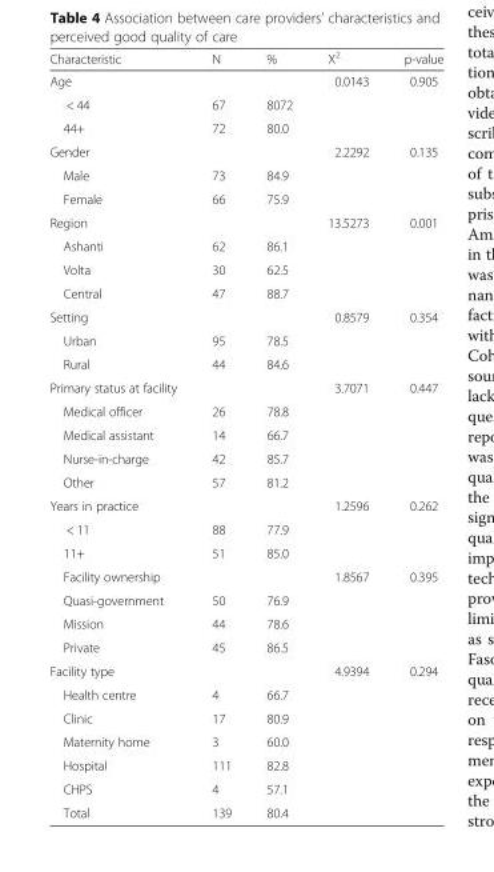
<table><thead><tr><td>Characteristic</td><td>N</td><td>%</td><td>X<sup>2</sup></td><td>p-value</td></tr></thead><tbody><tr><td>Age</td><td></td><td></td><td>0.0143</td><td>0.905</td></tr><tr><td>&lt; 44</td><td>67</td><td>8072</td><td></td><td></td></tr><tr><td>44+</td><td>72</td><td>80.0</td><td></td><td></td></tr><tr><td>Gender</td><td></td><td></td><td>2.2292</td><td>0.135</td></tr><tr><td>Male</td><td>73</td><td>84.9</td><td></td><td></td></tr><tr><td>Female</td><td>66</td><td>75.9</td><td></td><td></td></tr><tr><td>Region</td><td></td><td></td><td>13.5273</td><td>0.001</td></tr><tr><td>Ashanti</td><td>62</td><td>86.1</td><td></td><td></td></tr><tr><td>Volta</td><td>30</td><td>62.5</td><td></td><td></td></tr><tr><td>Central</td><td>47</td><td>88.7</td><td></td><td></td></tr><tr><td>Setting</td><td></td><td></td><td>0.8579</td><td>0.354</td></tr><tr><td>Urban</td><td>95</td><td>78.5</td><td></td><td></td></tr><tr><td>Rural</td><td>44</td><td>84.6</td><td></td><td></td></tr><tr><td>Primary status at facility</td><td></td><td></td><td>3.7071</td><td>0.447</td></tr><tr><td>Medical officer</td><td>26</td><td>78.8</td><td></td><td></td></tr><tr><td>Medical assistant</td><td>14</td><td>66.7</td><td></td><td></td></tr><tr><td>Nurse-in-charge</td><td>42</td><td>85.7</td><td></td><td></td></tr><tr><td>Other</td><td>57</td><td>81.2</td><td></td><td></td></tr><tr><td>Years in practice</td><td></td><td></td><td>1.2596</td><td>0.262</td></tr><tr><td>&lt; 11</td><td>88</td><td>77.9</td><td></td><td></td></tr><tr><td>11+</td><td>51</td><td>85.0</td><td></td><td></td></tr><tr><td>Facility ownership</td><td></td><td></td><td>1.8567</td><td>0.395</td></tr><tr><td>Quasi-government</td><td>50</td><td>76.9</td><td></td><td></td></tr><tr><td>Mission</td><td>44</td><td>78.6</td><td></td><td></td></tr><tr><td>Private</td><td>45</td><td>86.5</td><td></td><td></td></tr><tr><td>Facility type</td><td></td><td></td><td>4.9394</td><td>0.294</td></tr><tr><td>Health centre</td><td>4</td><td>66.7</td><td></td><td></td></tr><tr><td>Clinic</td><td>17</td><td>80.9</td><td></td><td></td></tr><tr><td>Maternity home</td><td>3</td><td>60.0</td><td></td><td></td></tr><tr><td>Hospital</td><td>111</td><td>82.8</td><td></td><td></td></tr><tr><td>CHPS</td><td>4</td><td>57.1</td><td></td><td></td></tr><tr><td>Total</td><td>139</td><td>80.4</td><td></td><td></td></tr></tbody></table>